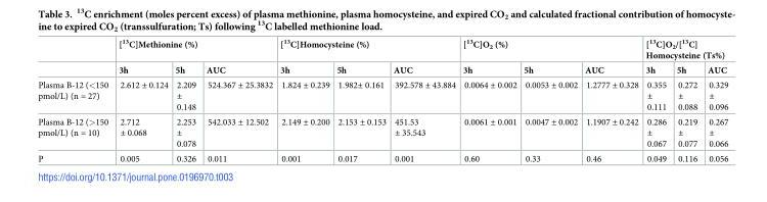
<table><thead><tr><td rowspan="2"></td><td colspan="3">[<sup>13</sup>C]Methionine (%)</td><td colspan="3">[<sup>13</sup>C]Homocysteine (%)</td><td colspan="3">[<sup>13</sup>C]O<sub>2</sub> (%)</td><td colspan="3">[<sup>13</sup>C]O<sub>2</sub>/[<sup>13</sup>C] Homocysteine (Ts%)</td></tr><tr><td>3h</td><td>5h</td><td>AUC</td><td>3h</td><td>5h</td><td>AUC</td><td>3h</td><td>5h</td><td>AUC</td><td>3h</td><td>5h</td><td>AUC</td></tr></thead><tbody><tr><td>Plasma B-12 (&lt;150 pmol/L) (n = 27)</td><td>2.612 ± 0.124</td><td>2.209 ± 0.148</td><td>524.367 ± 25.3832</td><td>1.824 ± 0.239</td><td>1.982± 0.161</td><td>392.578 ± 43.884</td><td>0.0064 ± 0.002</td><td>0.0053 ± 0.002</td><td>1.2777 ± 0.328</td><td>0.355 ± 0.111</td><td>0.272 ± 0.088</td><td>0.329 ± 0.096</td></tr><tr><td>Plasma B-12 (&gt;150 pmol/L) (n = 10)</td><td>2.712 ± 0.068</td><td>2.253 ± 0.078</td><td>542.033 ± 12.502</td><td>2.149 ± 0.200</td><td>2.153 ± 0.153</td><td>451.53 ± 35.543</td><td>0.0061 ± 0.001</td><td>0.0047 ± 0.002</td><td>1.1907 ± 0.242</td><td>0.286 ± 0.067</td><td>0.219 ± 0.077</td><td>0.267 ± 0.066</td></tr><tr><td>P</td><td>0.005</td><td>0.326</td><td>0.011</td><td>0.001</td><td>0.017</td><td>0.001</td><td>0.60</td><td>0.33</td><td>0.46</td><td>0.049</td><td>0.116</td><td>0.056</td></tr></tbody></table>